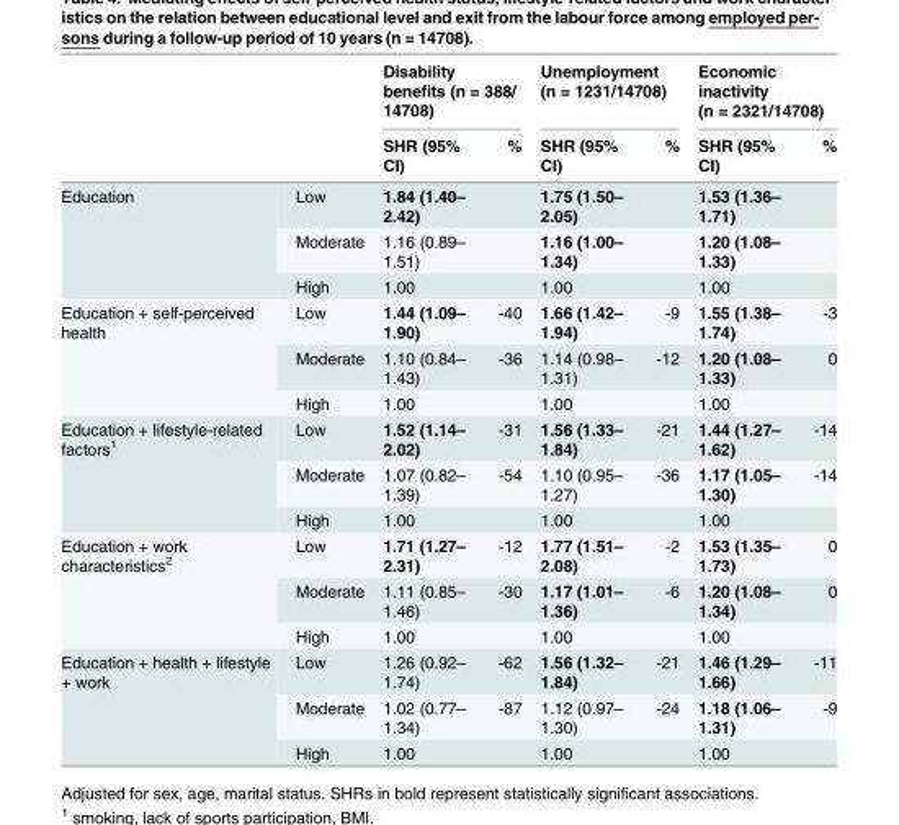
<table><thead><tr><td rowspan="2"></td><td rowspan="2"></td><td colspan="2">Disability benefits (n = 388/ 14708)</td><td colspan="2">Unemployment (n = 1231/14708)</td><td colspan="2">Economic inactivity (n = 2321/14708)</td></tr><tr><td>SHR (95% CI)</td><td>%</td><td>SHR (95% CI)</td><td>%</td><td>SHR (95% CI)</td><td>%</td></tr></thead><tbody><tr><td rowspan="3">Education</td><td>Low</td><td>1.84 (1.40– 2.42)</td><td></td><td>1.75 (1.50– 2.05)</td><td></td><td>1.53 (1.36– 1.71)</td><td></td></tr><tr><td>Moderate</td><td>1.16 (0.89– 1.51)</td><td></td><td>1.16 (1.00– 1.34)</td><td></td><td>1.20 (1.08– 1.33)</td><td></td></tr><tr><td>High</td><td>1.00</td><td></td><td>1.00</td><td></td><td>1.00</td><td></td></tr><tr><td rowspan="3">Education + self-perceived health</td><td>Low</td><td>1.44 (1.09– 1.90)</td><td>-40</td><td>1.66 (1.42– 1.94)</td><td>-9</td><td>1.55 (1.38– 1.74)</td><td>-3</td></tr><tr><td>Moderate</td><td>1.10 (0.84– 1.43)</td><td>-36</td><td>1.14 (0.98– 1.31)</td><td>-12</td><td>1.20 (1.08– 1.33)</td><td>0</td></tr><tr><td>High</td><td>1.00</td><td></td><td>1.00</td><td></td><td>1.00</td><td></td></tr><tr><td rowspan="3">Education + lifestyle-related factors<sup>1</sup></td><td>Low</td><td>1.52 (1.14– 2.02)</td><td>-31</td><td>1.56 (1.33– 1.84)</td><td>-21</td><td>1.44 (1.27– 1.62)</td><td>-14</td></tr><tr><td>Moderate</td><td>1.07 (0.82– 1.39)</td><td>-54</td><td>1.10 (0.95– 1.27)</td><td>-36</td><td>1.17 (1.05– 1.30)</td><td>-14</td></tr><tr><td>High</td><td>1.00</td><td></td><td>1.00</td><td></td><td>1.00</td><td></td></tr><tr><td rowspan="3">Education + work characteristics<sup>2</sup></td><td>Low</td><td>1.71 (1.27– 2.31)</td><td>-12</td><td>1.77 (1.51– 2.08)</td><td>-2</td><td>1.53 (1.35– 1.73)</td><td>0</td></tr><tr><td>Moderate</td><td>1.11 (0.85– 1.46)</td><td>-30</td><td>1.17 (1.01– 1.36)</td><td>-6</td><td>1.20 (1.08– 1.34)</td><td>0</td></tr><tr><td>High</td><td>1.00</td><td></td><td>1.00</td><td></td><td>1.00</td><td></td></tr><tr><td rowspan="3">Education + health + lifestyle + work</td><td>Low</td><td>1.26 (0.92– 1.74)</td><td>-62</td><td>1.56 (1.32– 1.84)</td><td>-21</td><td>1.46 (1.29– 1.66)</td><td>-11</td></tr><tr><td>Moderate</td><td>1.02 (0.77– 1.34)</td><td>-87</td><td>1.12 (0.97– 1.30)</td><td>-24</td><td>1.18 (1.06– 1.31)</td><td>-9</td></tr><tr><td>High</td><td>1.00</td><td></td><td>1.00</td><td></td><td>1.00</td><td></td></tr></tbody></table>